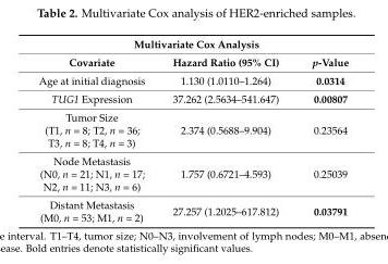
<table><thead><tr><td colspan="3">Multivariate Cox Analysis</td></tr><tr><td>Covariate</td><td>Hazard Ratio (95% CI)</td><td>p-Value</td></tr></thead><tbody><tr><td>Age at initial diagnosis</td><td>1.130 (1.0110–1.264)</td><td>0.0314</td></tr><tr><td>TUG1 Expression</td><td>37.262 (2.5634–541.647)</td><td>0.00807</td></tr><tr><td>Tumor Size (T1, n = 8; T2, n = 36; T3, n = 8; T4, n = 3)</td><td>2.374 (0.5688–9.904)</td><td>0.23564</td></tr><tr><td>Node Metastasis (N0, n = 21; N1, n = 17; N2, n = 11; N3, n = 6)</td><td>1.757 (0.6721–4.593)</td><td>0.25039</td></tr><tr><td>Distant Metastasis (M0, n = 53; M1, n = 2)</td><td>27.257 (1.2025–617.812)</td><td>0.03791</td></tr></tbody></table>